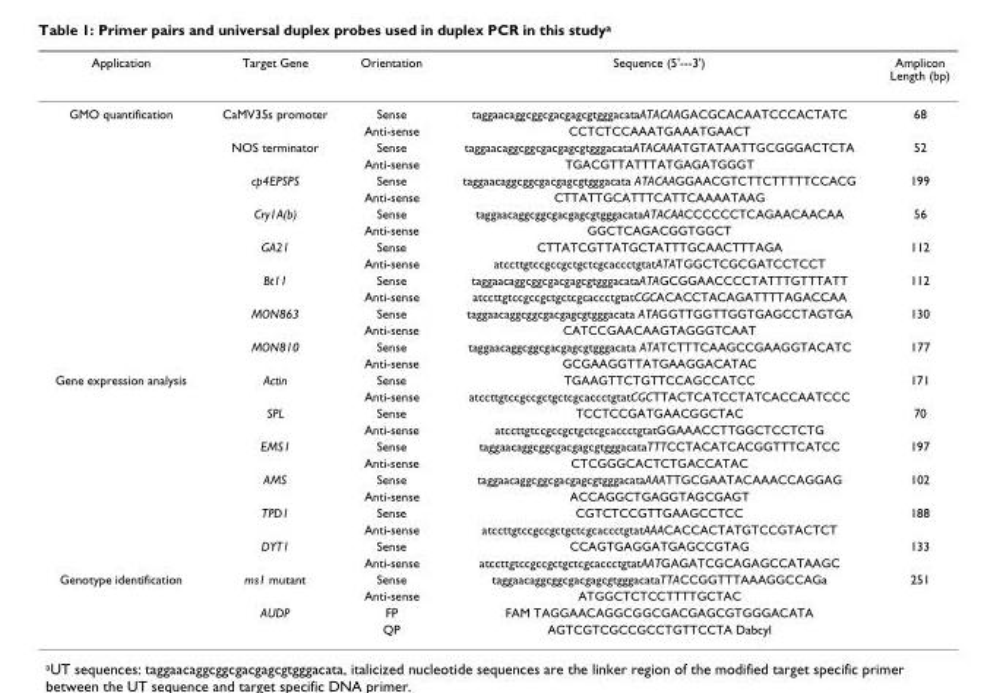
<table><thead><tr><td>Application</td><td>Target Gene</td><td>Orientation</td><td>Sequence (5&#x27;---3&#x27;)</td><td>Amplicon Length (bp)</td></tr></thead><tbody><tr><td rowspan="16">GMO quantification</td><td>CaMV35s promoter</td><td>Sense</td><td>taggaacaggcggcgacgagcgtgggacataATACAAGACGCACAATCCCACTATC</td><td>68</td></tr><tr><td></td><td>Anti-sense</td><td>CCTCTCCAAATGAAATGAACT</td><td></td></tr><tr><td>NOS terminator</td><td>Sense</td><td>taggaacaggcggcgacgagcgtgggacataATACAAATGTATAATTGCGGGACTCTA</td><td>52</td></tr><tr><td></td><td>Anti-sense</td><td>TGACGTTATTTATGAGATGGGT</td><td></td></tr><tr><td>cp4EPSPS</td><td>Sense</td><td>taggaacaggcggcgacgagcgtgggacata ATACAAGGAACGTCTTCTTTTTCCACG</td><td>199</td></tr><tr><td></td><td>Anti-sense</td><td>CTTATTGCATTTCATTCAAAATAAG</td><td></td></tr><tr><td>Cry1A(b)</td><td>Sense</td><td>taggaacaggcggcgacgagcgtgggacataATACAACCCCCCTCAGAACAACAA</td><td>56</td></tr><tr><td></td><td>Anti-sense</td><td>GGCTCAGACGGTGGCT</td><td></td></tr><tr><td>GA21</td><td>Sense</td><td>CTTATCGTTATGCTATTTGCAACTTTAGA</td><td>112</td></tr><tr><td></td><td>Anti-sense</td><td>atccttgtccgccgctgctcgcaccctgtatATATGGCTCGCGATCCTCCT</td><td></td></tr><tr><td>Bt11</td><td>Sense</td><td>taggaacaggcggcgacgagcgtgggacataATAGCGGAACCCCTATTTGTTTATT</td><td>112</td></tr><tr><td></td><td>Anti-sense</td><td>atccttgtccgccgctgctcgcaccctgtatCGCACACCTACAGATTTTAGACCAA</td><td></td></tr><tr><td>MON863</td><td>Sense</td><td>taggaacaggcggcgacgagcgtgggacata ATAGGTTGGTTGGTGAGCCTAGTGA</td><td>130</td></tr><tr><td></td><td>Anti-sense</td><td>CATCCGAACAAGTAGGGTCAAT</td><td></td></tr><tr><td>MON810</td><td>Sense</td><td>taggaacaggcggcgacgagcgtgggacata ATATCTTTCAAGCCGAAGGTACATC</td><td>177</td></tr><tr><td></td><td>Anti-sense</td><td>GCGAAGGTTATGAAGGACATAC</td><td></td></tr><tr><td rowspan="12">Gene expression analysis</td><td>Actin</td><td>Sense</td><td>TGAAGTTCTGTTCCAGCCATCC</td><td>171</td></tr><tr><td></td><td>Anti-sense</td><td>atccttgtccgccgctgctcgcaccctgtatCGCTTACTCATCCTATCACCAATCCC</td><td></td></tr><tr><td>SPL</td><td>Sense</td><td>TCCTCCGATGAACGGCTAC</td><td>70</td></tr><tr><td></td><td>Anti-sense</td><td>atccttgtccgccgctgctcgcaccctgtatGGAAACCTTGGCTCCTCTG</td><td></td></tr><tr><td>EMS1</td><td>Sense</td><td>taggaacaggcggcgacgagcgtgggacataTTTCCTACATCACGGTTTCATCC</td><td>197</td></tr><tr><td></td><td>Anti-sense</td><td>CTCGGGCACTCTGACCATAC</td><td></td></tr><tr><td>AMS</td><td>Sense</td><td>taggaacaggcggcgacgagcgtgggacataAAATTGCGAATACAAACCAGGAG</td><td>102</td></tr><tr><td></td><td>Anti-sense</td><td>ACCAGGCTGAGGTAGCGAGT</td><td></td></tr><tr><td>TPD1</td><td>Sense</td><td>CGTCTCCGTTGAAGCCTCC</td><td>188</td></tr><tr><td></td><td>Anti-sense</td><td>atccttgtccgccgctgctcgcaccctgtatAAACACCACTATGTCCGTACTCT</td><td></td></tr><tr><td>DYT1</td><td>Sense</td><td>CCAGTGAGGATGAGCCGTAG</td><td>133</td></tr><tr><td></td><td>Anti-sense</td><td>atccttgtccgccgctgctcgcaccctgtatAATGAGATCGCAGAGCCATAAGC</td><td></td></tr><tr><td rowspan="4">Genotype identification</td><td>ms1 mutant</td><td>Sense</td><td>taggaacaggcggcgacgagcgtgggacataTTACCGGTTTAAAGGCCAGa</td><td>251</td></tr><tr><td></td><td>Anti-sense</td><td>ATGGCTCTCCTTTTGCTAC</td><td></td></tr><tr><td>AUDP</td><td>FP</td><td>FAM TAGGAACAGGCGGCGACGAGCGTGGGACATA</td><td></td></tr><tr><td></td><td>QP</td><td>AGTCGTCGCCGCCTGTTCCTA Dabcyl</td><td></td></tr></tbody></table>